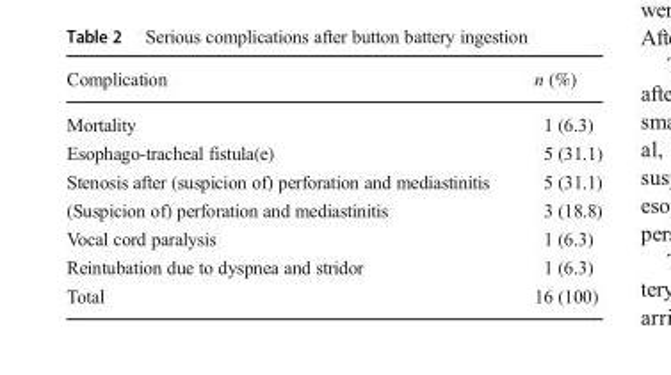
<table><thead><tr><td>Complication</td><td>n (%)</td></tr></thead><tbody><tr><td>Mortality</td><td>1 (6.3)</td></tr><tr><td>Esophago-tracheal fistula(e)</td><td>5 (31.1)</td></tr><tr><td>Stenosis after (suspicion of) perforation and mediastinitis</td><td>5 (31.1)</td></tr><tr><td>(Suspicion of) perforation and mediastinitis</td><td>3 (18.8)</td></tr><tr><td>Vocal cord paralysis</td><td>1 (6.3)</td></tr><tr><td>Reintubation due to dyspnea and stridor</td><td>1 (6.3)</td></tr><tr><td>Total</td><td>16 (100)</td></tr></tbody></table>